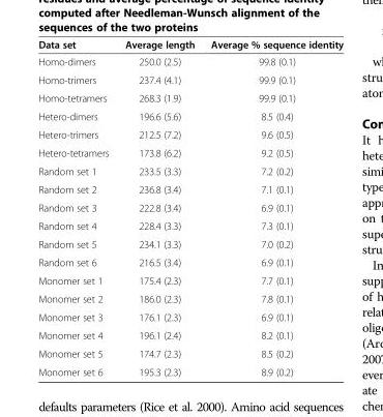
<table><thead><tr><td>Data set</td><td>Average length</td><td>Average % sequence identity</td></tr></thead><tbody><tr><td>Homo-dimers</td><td>250.0 (2.5)</td><td>99.8 (0.1)</td></tr><tr><td>Homo-trimers</td><td>237.4 (4.1)</td><td>99.9 (0.1)</td></tr><tr><td>Homo-tetramers</td><td>268.3 (1.9)</td><td>99.9 (0.1)</td></tr><tr><td>Hetero-dimers</td><td>196.6 (5.6)</td><td>8.5 (0.4)</td></tr><tr><td>Hetero-trimers</td><td>212.5 (7.2)</td><td>9.6 (0.5)</td></tr><tr><td>Hetero-tetramers</td><td>173.8 (6.2)</td><td>9.2 (0.5)</td></tr><tr><td>Random set 1</td><td>233.5 (3.3)</td><td>7.2 (0.2)</td></tr><tr><td>Random set 2</td><td>236.8 (3.4)</td><td>7.1 (0.1)</td></tr><tr><td>Random set 3</td><td>222.8 (3.4)</td><td>6.9 (0.1)</td></tr><tr><td>Random set 4</td><td>228.4 (3.3)</td><td>7.3 (0.1)</td></tr><tr><td>Random set 5</td><td>234.1 (3.3)</td><td>7.0 (0.2)</td></tr><tr><td>Random set 6</td><td>216.5 (3.4)</td><td>6.9 (0.1)</td></tr><tr><td>Monomer set 1</td><td>175.4 (2.3)</td><td>7.7 (0.1)</td></tr><tr><td>Monomer set 2</td><td>186.0 (2.3)</td><td>7.8 (0.1)</td></tr><tr><td>Monomer set 3</td><td>176.1 (2.3)</td><td>6.9 (0.1)</td></tr><tr><td>Monomer set 4</td><td>196.1 (2.4)</td><td>8.2 (0.1)</td></tr><tr><td>Monomer set 5</td><td>174.7 (2.3)</td><td>8.5 (0.2)</td></tr><tr><td>Monomer set 6</td><td>195.3 (2.3)</td><td>8.9 (0.2)</td></tr></tbody></table>